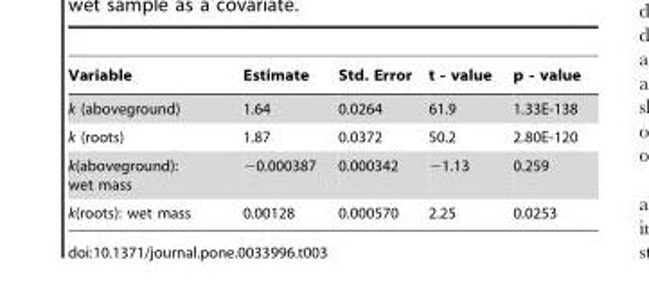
<table><thead><tr><td>Variable</td><td>Estimate</td><td>Std. Error</td><td>t - value</td><td>p - value</td></tr></thead><tbody><tr><td>k (aboveground)</td><td>1.64</td><td>0.0264</td><td>61.9</td><td>1.33E-138</td></tr><tr><td>k (roots)</td><td>1.87</td><td>0.0372</td><td>50.2</td><td>2.80E-120</td></tr><tr><td>k(aboveground): wet mass</td><td>−0.000387</td><td>0.000342</td><td>−1.13</td><td>0.259</td></tr><tr><td>k(roots): wet mass</td><td>0.00128</td><td>0.000570</td><td>2.25</td><td>0.0253</td></tr></tbody></table>